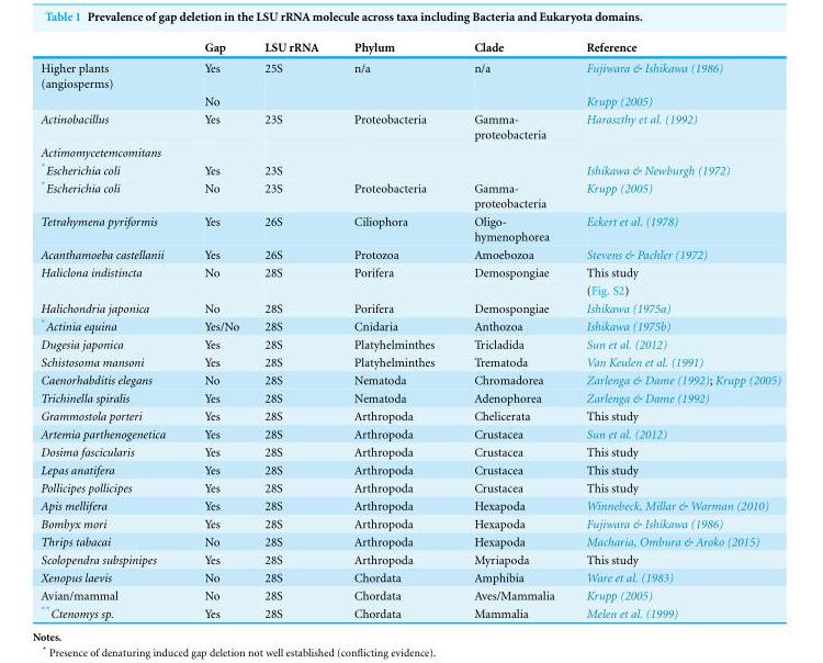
<table><thead><tr><td></td><td>Gap</td><td>LSU rRNA</td><td>Phylum</td><td>Clade</td><td>Reference</td></tr></thead><tbody><tr><td rowspan="2">Higher plants (angiosperms)</td><td>Yes</td><td>25S</td><td>n/a</td><td>n/a</td><td>Fujiwara &amp; Ishikawa (1986)</td></tr><tr><td>No</td><td></td><td></td><td></td><td>Krupp (2005)</td></tr><tr><td>Actinobacillus</td><td>Yes</td><td>23S</td><td>Proteobacteria</td><td>Gamma- proteobacteria</td><td>Haraszthy et al. (1992)</td></tr><tr><td colspan="6">Actimomycetemcomitans</td></tr><tr><td>*Escherichia coli</td><td>Yes</td><td>23S</td><td></td><td></td><td>Ishikawa &amp; Newburgh (1972)</td></tr><tr><td>*Escherichia coli</td><td>No</td><td>23S</td><td>Proteobacteria</td><td>Gamma- proteobacteria</td><td>Krupp (2005)</td></tr><tr><td>Tetrahymena pyriformis</td><td>Yes</td><td>26S</td><td>Ciliophora</td><td>Oligo- hymenophorea</td><td>Eckert et al. (1978)</td></tr><tr><td>Acanthamoeba castellanii</td><td>Yes</td><td>26S</td><td>Protozoa</td><td>Amoebozoa</td><td>Stevens &amp; Pachler (1972)</td></tr><tr><td rowspan="2">Haliclona indistincta</td><td>No</td><td>28S</td><td>Porifera</td><td>Demospongiae</td><td>This study</td></tr><tr><td></td><td></td><td></td><td></td><td>(Fig. S2)</td></tr><tr><td>Halichondria japonica</td><td>No</td><td>28S</td><td>Porifera</td><td>Demospongiae</td><td>Ishikawa (1975a)</td></tr><tr><td>*Actinia equina</td><td>Yes/No</td><td>28S</td><td>Cnidaria</td><td>Anthozoa</td><td>Ishikawa (1975b)</td></tr><tr><td>Dugesia japonica</td><td>Yes</td><td>28S</td><td>Platyhelminthes</td><td>Tricladida</td><td>Sun et al. (2012)</td></tr><tr><td>Schistosoma mansoni</td><td>Yes</td><td>28S</td><td>Platyhelminthes</td><td>Trematoda</td><td>Van Keulen et al. (1991)</td></tr><tr><td>Caenorhabditis elegans</td><td>No</td><td>28S</td><td>Nematoda</td><td>Chromadorea</td><td>Zarlenga &amp; Dame (1992); Krupp (2005)</td></tr><tr><td>Trichinella spiralis</td><td>Yes</td><td>28S</td><td>Nematoda</td><td>Adenophorea</td><td>Zarlenga &amp; Dame (1992)</td></tr><tr><td>Grammostola porteri</td><td>Yes</td><td>28S</td><td>Arthropoda</td><td>Chelicerata</td><td>This study</td></tr><tr><td>Artemia parthenogenetica</td><td>Yes</td><td>28S</td><td>Arthropoda</td><td>Crustacea</td><td>Sun et al. (2012)</td></tr><tr><td>Dosima fascicularis</td><td>Yes</td><td>28S</td><td>Arthropoda</td><td>Crustacea</td><td>This study</td></tr><tr><td>Lepas anatifera</td><td>Yes</td><td>28S</td><td>Arthropoda</td><td>Crustacea</td><td>This study</td></tr><tr><td>Pollicipes pollicipes</td><td>Yes</td><td>28S</td><td>Arthropoda</td><td>Crustacea</td><td>This study</td></tr><tr><td>Apis mellifera</td><td>Yes</td><td>28S</td><td>Arthropoda</td><td>Hexapoda</td><td>Winnebeck, Millar &amp; Warman (2010)</td></tr><tr><td>Bombyx mori</td><td>Yes</td><td>28S</td><td>Arthropoda</td><td>Hexapoda</td><td>Fujiwara &amp; Ishikawa (1986)</td></tr><tr><td>Thrips tabacai</td><td>No</td><td>28S</td><td>Arthropoda</td><td>Hexapoda</td><td>Macharia, Ombura &amp; Aroko (2015)</td></tr><tr><td>Scolopendra subspinipes</td><td>Yes</td><td>28S</td><td>Arthropoda</td><td>Myriapoda</td><td>This study</td></tr><tr><td>Xenopus laevis</td><td>No</td><td>28S</td><td>Chordata</td><td>Amphibia</td><td>Ware et al. (1983)</td></tr><tr><td>Avian/mammal</td><td>No</td><td>28S</td><td>Chordata</td><td>Aves/Mammalia</td><td>Krupp (2005)</td></tr><tr><td>**Ctenomys sp.</td><td>Yes</td><td>28S</td><td>Chordata</td><td>Mammalia</td><td>Melen et al. (1999)</td></tr></tbody></table>